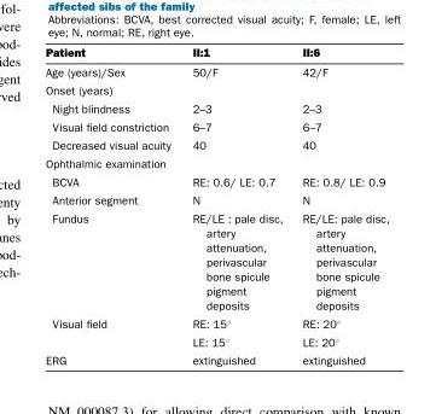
<table><thead><tr><td>Patient</td><td>II:1</td><td>II:6</td></tr></thead><tbody><tr><td>Age (years)/Sex</td><td>50/F</td><td>42/F</td></tr><tr><td colspan="3">Onset (years)</td></tr><tr><td>Night blindness</td><td>2–3</td><td>2–3</td></tr><tr><td>Visual field constriction</td><td>6–7</td><td>6–7</td></tr><tr><td>Decreased visual acuity</td><td>40</td><td>40</td></tr><tr><td colspan="3">Ophthalmic examination</td></tr><tr><td>BCVA</td><td>RE: 0.6/ LE: 0.7</td><td>RE: 0.8/ LE: 0.9</td></tr><tr><td>Anterior segment</td><td>N</td><td>N</td></tr><tr><td>Fundus</td><td>RE/LE : pale disc, artery attenuation, perivascular bone spicule pigment deposits</td><td>RE/LE: pale disc, artery attenuation, perivascular bone spicule pigment deposits</td></tr><tr><td rowspan="2">Visual field</td><td>RE: 15◦</td><td>RE: 20◦</td></tr><tr><td>LE: 15◦</td><td>LE: 20◦</td></tr><tr><td>ERG</td><td>extinguished</td><td>extinguished</td></tr></tbody></table>